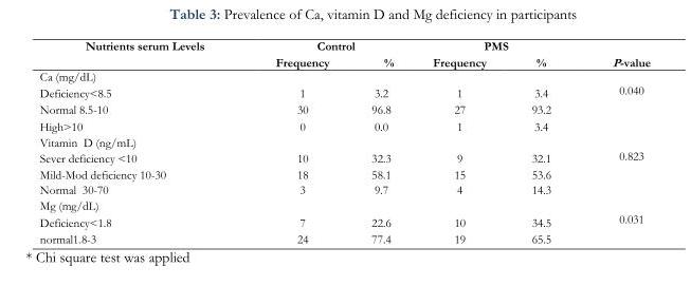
<table><tbody><tr><td rowspan="2">Nutrients serum Levels</td><td colspan="2">Control</td><td colspan="2">PMS</td><td></td></tr><tr><td>Frequency</td><td>%</td><td>Frequency</td><td>%</td><td>P-value</td></tr><tr><td colspan="5">Ca (mg/dL)</td><td rowspan="4">0.040</td></tr><tr><td>Deficiency&lt;8.5</td><td>1</td><td>3.2</td><td>1</td><td>3.4</td></tr><tr><td>Normal 8.5-10</td><td>30</td><td>96.8</td><td>27</td><td>93.2</td></tr><tr><td>High&gt;10</td><td>0</td><td>0.0</td><td>1</td><td>3.4</td></tr><tr><td colspan="5">Vitamin D (ng/mL)</td><td rowspan="4">0.823</td></tr><tr><td>Sever deficiency &lt;10</td><td>10</td><td>32.3</td><td>9</td><td>32.1</td></tr><tr><td>Mild-Mod deficiency 10-30</td><td>18</td><td>58.1</td><td>15</td><td>53.6</td></tr><tr><td>Normal 30-70</td><td>3</td><td>9.7</td><td>4</td><td>14.3</td></tr><tr><td colspan="5">Mg (mg/dL)</td><td rowspan="3">0.031</td></tr><tr><td>Deficiency&lt;1.8</td><td>7</td><td>22.6</td><td>10</td><td>34.5</td></tr><tr><td>normal1.8-3</td><td>24</td><td>77.4</td><td>19</td><td>65.5</td></tr></tbody></table>